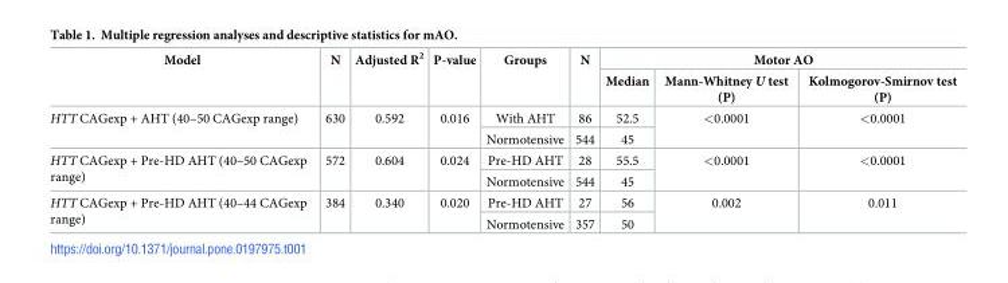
<table><thead><tr><td rowspan="2">Model</td><td rowspan="2">N</td><td rowspan="2">Adjusted R<sup>2</sup></td><td rowspan="2">P-value</td><td rowspan="2">Groups</td><td rowspan="2">N</td><td colspan="3">Motor AO</td></tr><tr><td>Median</td><td>Mann-Whitney U test (P)</td><td>Kolmogorov-Smirnov test (P)</td></tr></thead><tbody><tr><td rowspan="2">HTT CAGexp + AHT (40–50 CAGexp range)</td><td rowspan="2">630</td><td rowspan="2">0.592</td><td rowspan="2">0.016</td><td>With AHT</td><td>86</td><td>52.5</td><td rowspan="2">&lt;0.0001</td><td rowspan="2">&lt;0.0001</td></tr><tr><td>Normotensive</td><td>544</td><td>45</td></tr><tr><td rowspan="2">HTT CAGexp + Pre-HD AHT (40–50 CAGexp range)</td><td rowspan="2">572</td><td rowspan="2">0.604</td><td rowspan="2">0.024</td><td>Pre-HD AHT</td><td>28</td><td>55.5</td><td rowspan="2">&lt;0.0001</td><td rowspan="2">&lt;0.0001</td></tr><tr><td>Normotensive</td><td>544</td><td>45</td></tr><tr><td rowspan="2">HTT CAGexp + Pre-HD AHT (40–44 CAGexp range)</td><td rowspan="2">384</td><td rowspan="2">0.340</td><td rowspan="2">0.020</td><td>Pre-HD AHT</td><td>27</td><td>56</td><td rowspan="2">0.002</td><td rowspan="2">0.011</td></tr><tr><td>Normotensive</td><td>357</td><td>50</td></tr></tbody></table>